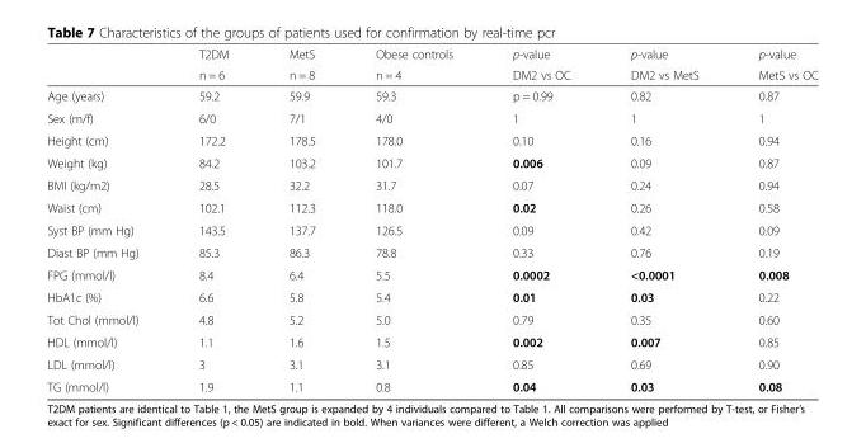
<table><thead><tr><td rowspan="2"></td><td rowspan="2">T2DM n = 6</td><td rowspan="2">MetS n = 8</td><td rowspan="2">Obese controls n = 4</td><td rowspan="2">p-value DM2 vs OC</td><td rowspan="2">p-value DM2 vs MetS</td><td rowspan="2">p-value MetS vs OC</td></tr><tr></tr></thead><tbody><tr><td>Age (years)</td><td>59.2</td><td>59.9</td><td>59.3</td><td>p = 0.99</td><td>0.82</td><td>0.87</td></tr><tr><td>Sex (m/f)</td><td>6/0</td><td>7/1</td><td>4/0</td><td>1</td><td>1</td><td>1</td></tr><tr><td>Height (cm)</td><td>172.2</td><td>178.5</td><td>178.0</td><td>0.10</td><td>0.16</td><td>0.94</td></tr><tr><td>Weight (kg)</td><td>84.2</td><td>103.2</td><td>101.7</td><td>0.006</td><td>0.09</td><td>0.87</td></tr><tr><td>BMI (kg/m2)</td><td>28.5</td><td>32.2</td><td>31.7</td><td>0.07</td><td>0.24</td><td>0.94</td></tr><tr><td>Waist (cm)</td><td>102.1</td><td>112.3</td><td>118.0</td><td>0.02</td><td>0.26</td><td>0.58</td></tr><tr><td>Syst BP (mm Hg)</td><td>143.5</td><td>137.7</td><td>126.5</td><td>0.09</td><td>0.42</td><td>0.09</td></tr><tr><td>Diast BP (mm Hg)</td><td>85.3</td><td>86.3</td><td>78.8</td><td>0.33</td><td>0.76</td><td>0.19</td></tr><tr><td>FPG (mmol/l)</td><td>8.4</td><td>6.4</td><td>5.5</td><td>0.0002</td><td>&lt;0.0001</td><td>0.008</td></tr><tr><td>HbA1c (%)</td><td>6.6</td><td>5.8</td><td>5.4</td><td>0.01</td><td>0.03</td><td>0.22</td></tr><tr><td>Tot Chol (mmol/l)</td><td>4.8</td><td>5.2</td><td>5.0</td><td>0.79</td><td>0.35</td><td>0.60</td></tr><tr><td>HDL (mmol/l)</td><td>1.1</td><td>1.6</td><td>1.5</td><td>0.002</td><td>0.007</td><td>0.85</td></tr><tr><td>LDL (mmol/l)</td><td>3</td><td>3.1</td><td>3.1</td><td>0.85</td><td>0.69</td><td>0.90</td></tr><tr><td>TG (mmol/l)</td><td>1.9</td><td>1.1</td><td>0.8</td><td>0.04</td><td>0.03</td><td>0.08</td></tr></tbody></table>